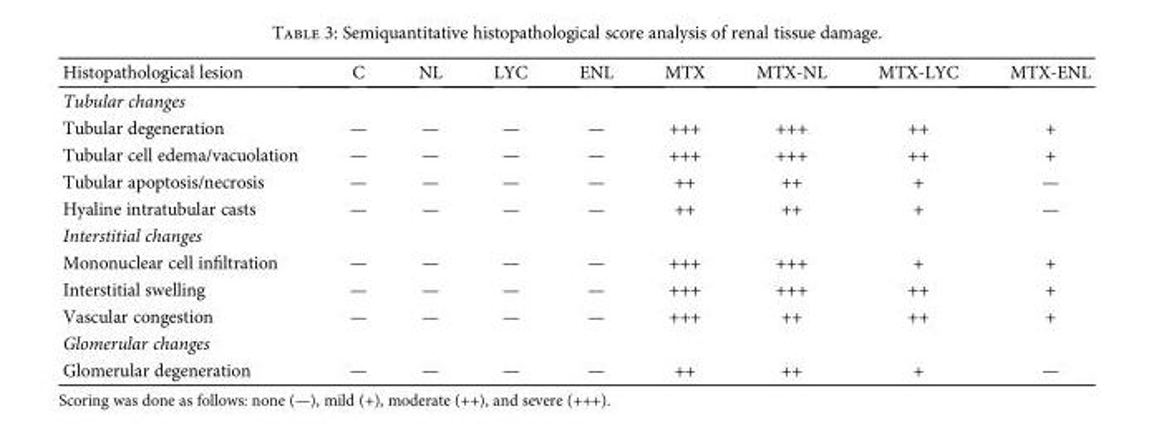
<table><thead><tr><td>Histopathological lesion</td><td>C</td><td>NL</td><td>LYC</td><td>ENL</td><td>MTX</td><td>MTX-NL</td><td>MTX-LYC</td><td>MTX-ENL</td></tr></thead><tbody><tr><td colspan="9">Tubular changes</td></tr><tr><td>Tubular degeneration</td><td>—</td><td>—</td><td>—</td><td>—</td><td>+++</td><td>+++</td><td>++</td><td>+</td></tr><tr><td>Tubular cell edema/vacuolation</td><td>—</td><td>—</td><td>—</td><td>—</td><td>+++</td><td>+++</td><td>++</td><td>+</td></tr><tr><td>Tubular apoptosis/necrosis</td><td>—</td><td>—</td><td>—</td><td>—</td><td>++</td><td>++</td><td>+</td><td>—</td></tr><tr><td>Hyaline intratubular casts</td><td>—</td><td>—</td><td>—</td><td>—</td><td>++</td><td>++</td><td>+</td><td>—</td></tr><tr><td colspan="9">Interstitial changes</td></tr><tr><td>Mononuclear cell infiltration</td><td>—</td><td>—</td><td>—</td><td>—</td><td>+++</td><td>+++</td><td>+</td><td>+</td></tr><tr><td>Interstitial swelling</td><td>—</td><td>—</td><td>—</td><td>—</td><td>+++</td><td>+++</td><td>++</td><td>+</td></tr><tr><td>Vascular congestion</td><td>—</td><td>—</td><td>—</td><td>—</td><td>+++</td><td>++</td><td>++</td><td>+</td></tr><tr><td colspan="9">Glomerular changes</td></tr><tr><td>Glomerular degeneration</td><td>—</td><td>—</td><td>—</td><td>—</td><td>++</td><td>++</td><td>+</td><td>—</td></tr></tbody></table>